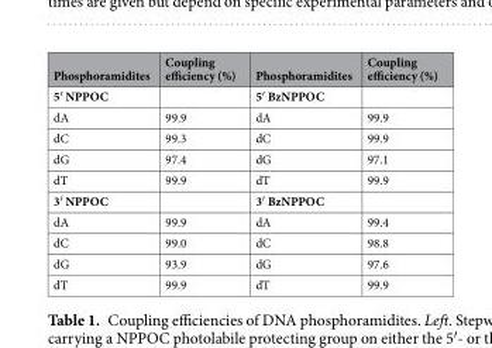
<table><thead><tr><td>Phosphoramidites</td><td>Coupling efficiency (%)</td><td>Phosphoramidites</td><td>Coupling efficiency (%)</td></tr></thead><tbody><tr><td>5′ NPPOC</td><td></td><td>5′ BzNPPOC</td><td></td></tr><tr><td>dA</td><td>99.9</td><td>dA</td><td>99.9</td></tr><tr><td>dC</td><td>99.3</td><td>dC</td><td>99.9</td></tr><tr><td>dG</td><td>97.4</td><td>dG</td><td>97.1</td></tr><tr><td>dT</td><td>99.9</td><td>dT</td><td>99.9</td></tr><tr><td>3′ NPPOC</td><td></td><td>3′ BzNPPOC</td><td></td></tr><tr><td>dA</td><td>99.9</td><td>dA</td><td>99.4</td></tr><tr><td>dC</td><td>99.0</td><td>dC</td><td>98.8</td></tr><tr><td>dG</td><td>93.9</td><td>dG</td><td>97.6</td></tr><tr><td>dT</td><td>99.9</td><td>dT</td><td>99.9</td></tr></tbody></table>